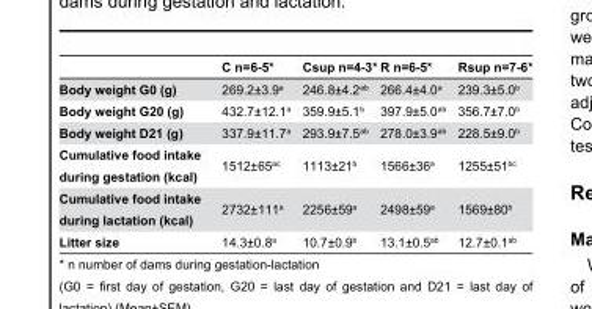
<table><thead><tr><td></td><td>C n=6-5*</td><td>Csup n=4-3*</td><td>R n=6-5*</td><td>Rsup n=7-6*</td></tr></thead><tbody><tr><td>Body weight G0 (g)</td><td>269.2±3.9<sup>a</sup></td><td>246.8±4.2<sup>ab</sup></td><td>266.4±4.0<sup>a</sup></td><td>239.3±5.0<sup>b</sup></td></tr><tr><td>Body weight G20 (g)</td><td>432.7±12.1<sup>a</sup></td><td>359.9±5.1<sup>b</sup></td><td>397.9±5.0<sup>ab</sup></td><td>356.7±7.0<sup>b</sup></td></tr><tr><td>Body weight D21 (g)</td><td>337.9±11.7<sup>a</sup></td><td>293.9±7.5<sup>ab</sup></td><td>278.0±3.9<sup>ab</sup></td><td>228.5±9.0<sup>b</sup></td></tr><tr><td>Cumulative food intake during gestation (kcal)</td><td>1512±65<sup>ac</sup></td><td>1113±21<sup>b</sup></td><td>1566±36<sup>a</sup></td><td>1255±51<sup>bc</sup></td></tr><tr><td>Cumulative food intake during lactation (kcal)</td><td>2732±111<sup>a</sup></td><td>2256±59<sup>a</sup></td><td>2498±59<sup>a</sup></td><td>1569±80<sup>b</sup></td></tr><tr><td>Litter size</td><td>14.3±0.8<sup>a</sup></td><td>10.7±0.9<sup>b</sup></td><td>13.1±0.5<sup>ab</sup></td><td>12.7±0.1<sup>ab</sup></td></tr></tbody></table>